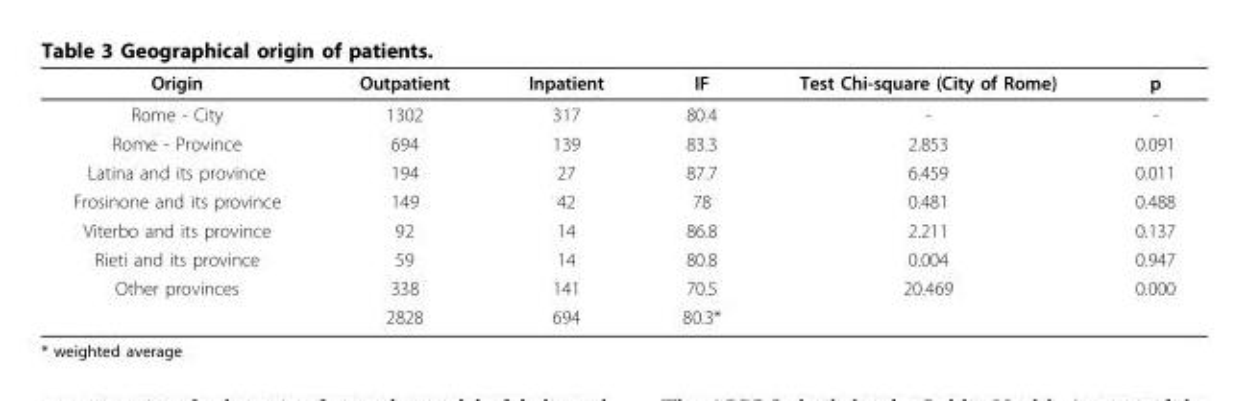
<table><thead><tr><td>Origin</td><td>Outpatient</td><td>Inpatient</td><td>IF</td><td>Test Chi-square (City of Rome)</td><td>p</td></tr></thead><tbody><tr><td>Rome - City</td><td>1302</td><td>317</td><td>80.4</td><td>-</td><td>-</td></tr><tr><td>Rome - Province</td><td>694</td><td>139</td><td>83.3</td><td>2.853</td><td>0.091</td></tr><tr><td>Latina and its province</td><td>194</td><td>27</td><td>87.7</td><td>6.459</td><td>0.011</td></tr><tr><td>Frosinone and its province</td><td>149</td><td>42</td><td>78</td><td>0.481</td><td>0.488</td></tr><tr><td>Viterbo and its province</td><td>92</td><td>14</td><td>86.8</td><td>2.211</td><td>0.137</td></tr><tr><td>Rieti and its province</td><td>59</td><td>14</td><td>80.8</td><td>0.004</td><td>0.947</td></tr><tr><td rowspan="2">Other provinces</td><td>338</td><td>141</td><td>70.5</td><td>20.469</td><td>0.000</td></tr><tr><td>2828</td><td>694</td><td>80.3*</td><td></td><td></td></tr></tbody></table>